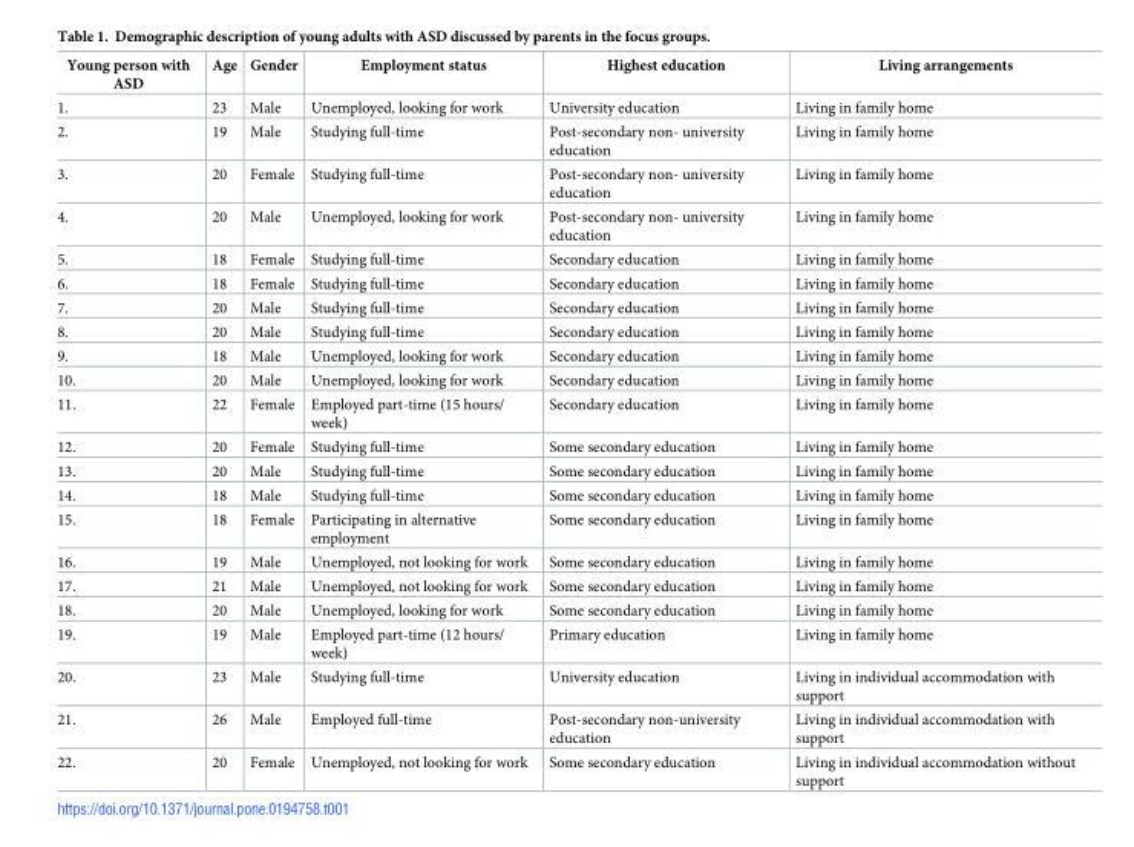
<table><thead><tr><td>Young person with ASD</td><td>Age</td><td>Gender</td><td>Employment status</td><td>Highest education</td><td>Living arrangements</td></tr></thead><tbody><tr><td>1.</td><td>23</td><td>Male</td><td>Unemployed, looking for work</td><td>University education</td><td>Living in family home</td></tr><tr><td>2.</td><td>19</td><td>Male</td><td>Studying full-time</td><td>Post-secondary non- university education</td><td>Living in family home</td></tr><tr><td>3.</td><td>20</td><td>Female</td><td>Studying full-time</td><td>Post-secondary non- university education</td><td>Living in family home</td></tr><tr><td>4.</td><td>20</td><td>Male</td><td>Unemployed, looking for work</td><td>Post-secondary non- university education</td><td>Living in family home</td></tr><tr><td>5.</td><td>18</td><td>Female</td><td>Studying full-time</td><td>Secondary education</td><td>Living in family home</td></tr><tr><td>6.</td><td>18</td><td>Female</td><td>Studying full-time</td><td>Secondary education</td><td>Living in family home</td></tr><tr><td>7.</td><td>20</td><td>Male</td><td>Studying full-time</td><td>Secondary education</td><td>Living in family home</td></tr><tr><td>8.</td><td>20</td><td>Male</td><td>Studying full-time</td><td>Secondary education</td><td>Living in family home</td></tr><tr><td>9.</td><td>18</td><td>Male</td><td>Unemployed, looking for work</td><td>Secondary education</td><td>Living in family home</td></tr><tr><td>10.</td><td>20</td><td>Male</td><td>Unemployed, looking for work</td><td>Secondary education</td><td>Living in family home</td></tr><tr><td>11.</td><td>22</td><td>Female</td><td>Employed part-time (15 hours/ week)</td><td>Secondary education</td><td>Living in family home</td></tr><tr><td>12.</td><td>20</td><td>Female</td><td>Studying full-time</td><td>Some secondary education</td><td>Living in family home</td></tr><tr><td>13.</td><td>20</td><td>Male</td><td>Studying full-time</td><td>Some secondary education</td><td>Living in family home</td></tr><tr><td>14.</td><td>18</td><td>Male</td><td>Studying full-time</td><td>Some secondary education</td><td>Living in family home</td></tr><tr><td>15.</td><td>18</td><td>Female</td><td>Participating in alternative employment</td><td>Some secondary education</td><td>Living in family home</td></tr><tr><td>16.</td><td>19</td><td>Male</td><td>Unemployed, not looking for work</td><td>Some secondary education</td><td>Living in family home</td></tr><tr><td>17.</td><td>21</td><td>Male</td><td>Unemployed, not looking for work</td><td>Some secondary education</td><td>Living in family home</td></tr><tr><td>18.</td><td>20</td><td>Male</td><td>Unemployed, looking for work</td><td>Some secondary education</td><td>Living in family home</td></tr><tr><td>19.</td><td>19</td><td>Male</td><td>Employed part-time (12 hours/ week)</td><td>Primary education</td><td>Living in family home</td></tr><tr><td>20.</td><td>23</td><td>Male</td><td>Studying full-time</td><td>University education</td><td>Living in individual accommodation with support</td></tr><tr><td>21.</td><td>26</td><td>Male</td><td>Employed full-time</td><td>Post-secondary non-university education</td><td>Living in individual accommodation with support</td></tr><tr><td>22.</td><td>20</td><td>Female</td><td>Unemployed, not looking for work</td><td>Some secondary education</td><td>Living in individual accommodation without support</td></tr></tbody></table>